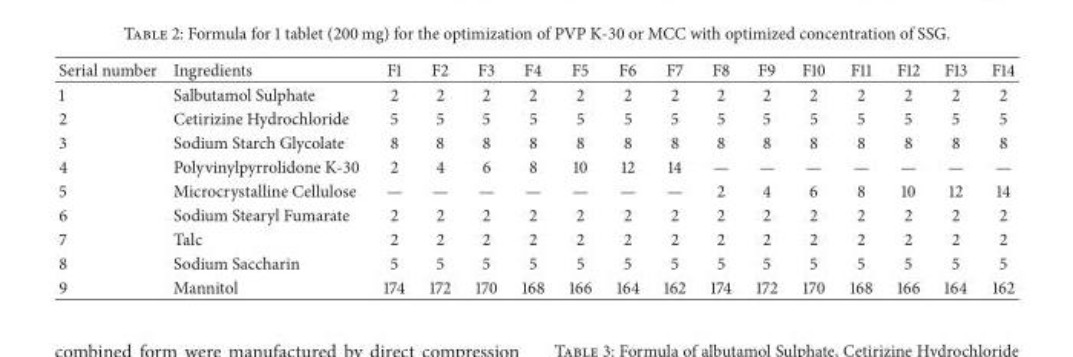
<table><thead><tr><td>Serial number</td><td>Ingredients</td><td>F1</td><td>F2</td><td>F3</td><td>F4</td><td>F5</td><td>F6</td><td>F7</td><td>F8</td><td>F9</td><td>F10</td><td>F11</td><td>F12</td><td>F13</td><td>F14</td></tr></thead><tbody><tr><td>1</td><td>Salbutamol Sulphate</td><td>2</td><td>2</td><td>2</td><td>2</td><td>2</td><td>2</td><td>2</td><td>2</td><td>2</td><td>2</td><td>2</td><td>2</td><td>2</td><td>2</td></tr><tr><td>2</td><td>Cetirizine Hydrochloride</td><td>5</td><td>5</td><td>5</td><td>5</td><td>5</td><td>5</td><td>5</td><td>5</td><td>5</td><td>5</td><td>5</td><td>5</td><td>5</td><td>5</td></tr><tr><td>3</td><td>Sodium Starch Glycolate</td><td>8</td><td>8</td><td>8</td><td>8</td><td>8</td><td>8</td><td>8</td><td>8</td><td>8</td><td>8</td><td>8</td><td>8</td><td>8</td><td>8</td></tr><tr><td>4</td><td>Polyvinylpyrrolidone K-30</td><td>2</td><td>4</td><td>6</td><td>8</td><td>10</td><td>12</td><td>14</td><td>—</td><td>—</td><td>—</td><td>—</td><td>—</td><td>—</td><td>—</td></tr><tr><td>5</td><td>Microcrystalline Cellulose</td><td>—</td><td>—</td><td>—</td><td>—</td><td>—</td><td>—</td><td>—</td><td>2</td><td>4</td><td>6</td><td>8</td><td>10</td><td>12</td><td>14</td></tr><tr><td>6</td><td>Sodium Stearyl Fumarate</td><td>2</td><td>2</td><td>2</td><td>2</td><td>2</td><td>2</td><td>2</td><td>2</td><td>2</td><td>2</td><td>2</td><td>2</td><td>2</td><td>2</td></tr><tr><td>7</td><td>Talc</td><td>2</td><td>2</td><td>2</td><td>2</td><td>2</td><td>2</td><td>2</td><td>2</td><td>2</td><td>2</td><td>2</td><td>2</td><td>2</td><td>2</td></tr><tr><td>8</td><td>Sodium Saccharin</td><td>5</td><td>5</td><td>5</td><td>5</td><td>5</td><td>5</td><td>5</td><td>5</td><td>5</td><td>5</td><td>5</td><td>5</td><td>5</td><td>5</td></tr><tr><td>9</td><td>Mannitol</td><td>174</td><td>172</td><td>170</td><td>168</td><td>166</td><td>164</td><td>162</td><td>174</td><td>172</td><td>170</td><td>168</td><td>166</td><td>164</td><td>162</td></tr></tbody></table>